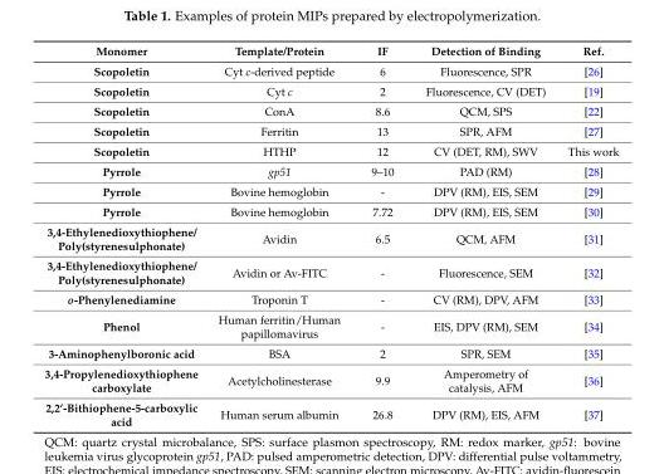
<table><thead><tr><td>Monomer</td><td>Template/Protein</td><td>IF</td><td>Detection of Binding</td><td>Ref.</td></tr></thead><tbody><tr><td>Scopoletin</td><td>Cyt c-derived peptide</td><td>6</td><td>Fluorescence, SPR</td><td>[26]</td></tr><tr><td>Scopoletin</td><td>Cyt c</td><td>2</td><td>Fluorescence, CV (DET)</td><td>[19]</td></tr><tr><td>Scopoletin</td><td>ConA</td><td>8.6</td><td>QCM, SPS</td><td>[22]</td></tr><tr><td>Scopoletin</td><td>Ferritin</td><td>13</td><td>SPR, AFM</td><td>[27]</td></tr><tr><td>Scopoletin</td><td>HTHP</td><td>12</td><td>CV (DET, RM), SWV</td><td>This work</td></tr><tr><td>Pyrrole</td><td>gp51</td><td>9–10</td><td>PAD (RM)</td><td>[28]</td></tr><tr><td>Pyrrole</td><td>Bovine hemoglobin</td><td>-</td><td>DPV (RM), EIS, SEM</td><td>[29]</td></tr><tr><td>Pyrrole</td><td>Bovine hemoglobin</td><td>7.72</td><td>DPV (RM), EIS, SEM</td><td>[30]</td></tr><tr><td>3,4-Ethylenedioxythiophene/ Poly(styrenesulphonate)</td><td>Avidin</td><td>6.5</td><td>QCM, AFM</td><td>[31]</td></tr><tr><td>3,4-Ethylenedioxythiophene/ Poly(styrenesulphonate)</td><td>Avidin or Av-FITC</td><td>-</td><td>Fluorescence, SEM</td><td>[32]</td></tr><tr><td>o-Phenylenediamine</td><td>Troponin T</td><td>-</td><td>CV (RM), DPV, AFM</td><td>[33]</td></tr><tr><td>Phenol</td><td>Human ferritin/Human papillomavirus</td><td>-</td><td>EIS, DPV (RM), SEM</td><td>[34]</td></tr><tr><td>3-Aminophenylboronic acid</td><td>BSA</td><td>2</td><td>SPR, SEM</td><td>[35]</td></tr><tr><td>3,4-Propylenedioxythiophene carboxylate</td><td>Acetylcholinesterase</td><td>9.9</td><td>Amperometry of catalysis, AFM</td><td>[36]</td></tr><tr><td>2,2’-Bithiophene-5-carboxylic acid</td><td>Human serum albumin</td><td>26.8</td><td>DPV (RM), EIS, AFM</td><td>[37]</td></tr></tbody></table>